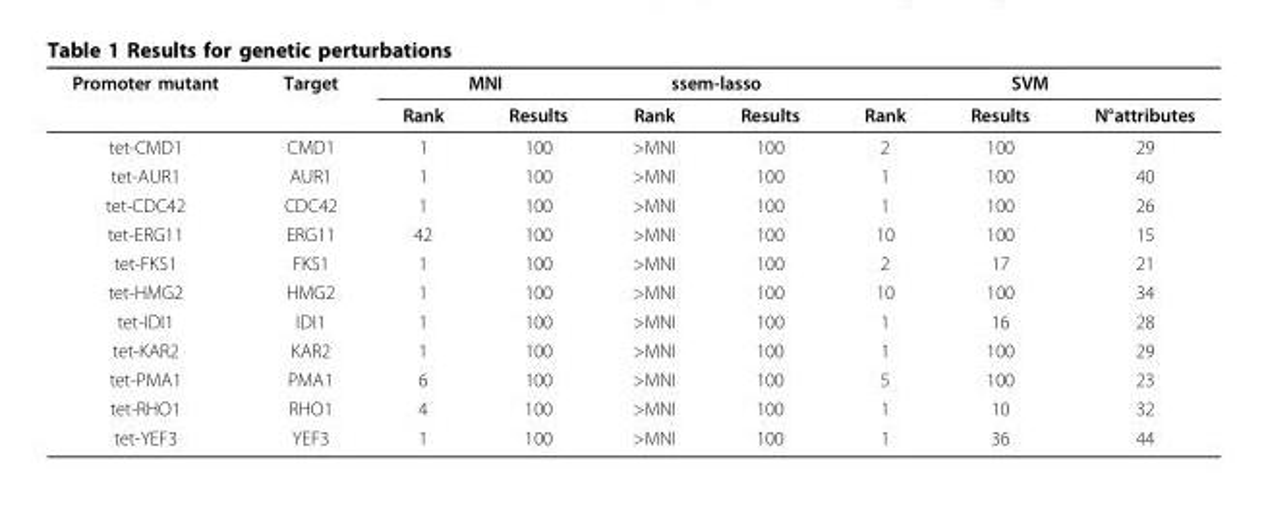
<table><thead><tr><td rowspan="2">Promoter mutant</td><td rowspan="2">Target</td><td colspan="2">MNI</td><td colspan="2">ssem-lasso</td><td colspan="3">SVM</td></tr><tr><td>Rank</td><td>Results</td><td>Rank</td><td>Results</td><td>Rank</td><td>Results</td><td>N°attributes</td></tr></thead><tbody><tr><td>tet-CMD1</td><td>CMD1</td><td>1</td><td>100</td><td>&gt;MNI</td><td>100</td><td>2</td><td>100</td><td>29</td></tr><tr><td>tet-AUR1</td><td>AUR1</td><td>1</td><td>100</td><td>&gt;MNI</td><td>100</td><td>1</td><td>100</td><td>40</td></tr><tr><td>tet-CDC42</td><td>CDC42</td><td>1</td><td>100</td><td>&gt;MNI</td><td>100</td><td>1</td><td>100</td><td>26</td></tr><tr><td>tet-ERG11</td><td>ERG11</td><td>42</td><td>100</td><td>&gt;MNI</td><td>100</td><td>10</td><td>100</td><td>15</td></tr><tr><td>tet-FKS1</td><td>FKS1</td><td>1</td><td>100</td><td>&gt;MNI</td><td>100</td><td>2</td><td>17</td><td>21</td></tr><tr><td>tet-HMG2</td><td>HMG2</td><td>1</td><td>100</td><td>&gt;MNI</td><td>100</td><td>10</td><td>100</td><td>34</td></tr><tr><td>tet-IDI1</td><td>IDI1</td><td>1</td><td>100</td><td>&gt;MNI</td><td>100</td><td>1</td><td>16</td><td>28</td></tr><tr><td>tet-KAR2</td><td>KAR2</td><td>1</td><td>100</td><td>&gt;MNI</td><td>100</td><td>1</td><td>100</td><td>29</td></tr><tr><td>tet-PMA1</td><td>PMA1</td><td>6</td><td>100</td><td>&gt;MNI</td><td>100</td><td>5</td><td>100</td><td>23</td></tr><tr><td>tet-RHO1</td><td>RHO1</td><td>4</td><td>100</td><td>&gt;MNI</td><td>100</td><td>1</td><td>10</td><td>32</td></tr><tr><td>tet-YEF3</td><td>YEF3</td><td>1</td><td>100</td><td>&gt;MNI</td><td>100</td><td>1</td><td>36</td><td>44</td></tr></tbody></table>